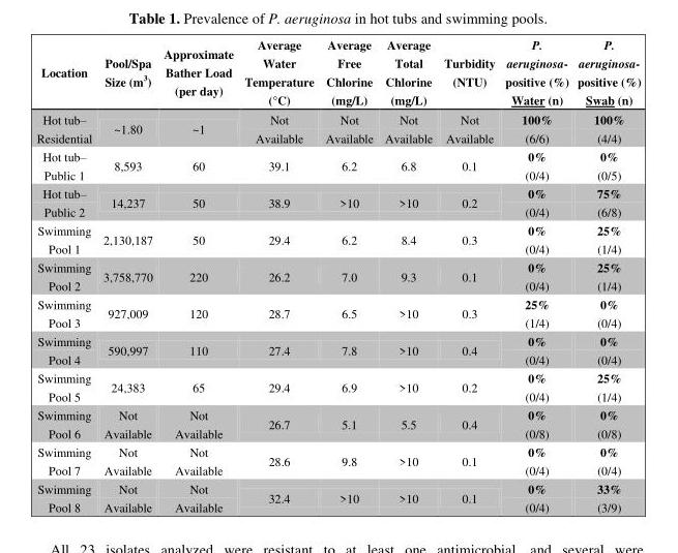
<table><thead><tr><td>Location</td><td>Pool/Spa Size (m<sup>3</sup>)</td><td>Approximate Bather Load (per day)</td><td>Average Water Temperature (°C)</td><td>Average Free Chlorine (mg/L)</td><td>Average Total Chlorine (mg/L)</td><td>Turbidity (NTU)</td><td>P. aeruginosa- positive (%) Water (n)</td><td>P. aeruginosa- positive (%) Swab (n)</td></tr></thead><tbody><tr><td>Hot tub– Residential</td><td>~1.80</td><td>~1</td><td>Not Available</td><td>Not Available</td><td>Not Available</td><td>Not Available</td><td>100% (6/6)</td><td>100% (4/4)</td></tr><tr><td>Hot tub– Public 1</td><td>8,593</td><td>60</td><td>39.1</td><td>6.2</td><td>6.8</td><td>0.1</td><td>0% (0/4)</td><td>0% (0/5)</td></tr><tr><td>Hot tub– Public 2</td><td>14,237</td><td>50</td><td>38.9</td><td>&gt;10</td><td>&gt;10</td><td>0.2</td><td>0% (0/4)</td><td>75% (6/8)</td></tr><tr><td>Swimming Pool 1</td><td>2,130,187</td><td>50</td><td>29.4</td><td>6.2</td><td>8.4</td><td>0.3</td><td>0% (0/4)</td><td>25% (1/4)</td></tr><tr><td>Swimming Pool 2</td><td>3,758,770</td><td>220</td><td>26.2</td><td>7.0</td><td>9.3</td><td>0.1</td><td>0% (0/4)</td><td>25% (1/4)</td></tr><tr><td>Swimming Pool 3</td><td>927,009</td><td>120</td><td>28.7</td><td>6.5</td><td>&gt;10</td><td>0.3</td><td>25% (1/4)</td><td>0% (0/4)</td></tr><tr><td>Swimming Pool 4</td><td>590,997</td><td>110</td><td>27.4</td><td>7.8</td><td>&gt;10</td><td>0.4</td><td>0% (0/4)</td><td>0% (0/4)</td></tr><tr><td>Swimming Pool 5</td><td>24,383</td><td>65</td><td>29.4</td><td>6.9</td><td>&gt;10</td><td>0.2</td><td>0% (0/4)</td><td>25% (1/4)</td></tr><tr><td>Swimming Pool 6</td><td>Not Available</td><td>Not Available</td><td>26.7</td><td>5.1</td><td>5.5</td><td>0.4</td><td>0% (0/8)</td><td>0% (0/8)</td></tr><tr><td>Swimming Pool 7</td><td>Not Available</td><td>Not Available</td><td>28.6</td><td>9.8</td><td>&gt;10</td><td>0.1</td><td>0% (0/4)</td><td>0% (0/4)</td></tr><tr><td>Swimming Pool 8</td><td>Not Available</td><td>Not Available</td><td>32.4</td><td>&gt;10</td><td>&gt;10</td><td>0.1</td><td>0% (0/4)</td><td>33% (3/9)</td></tr></tbody></table>